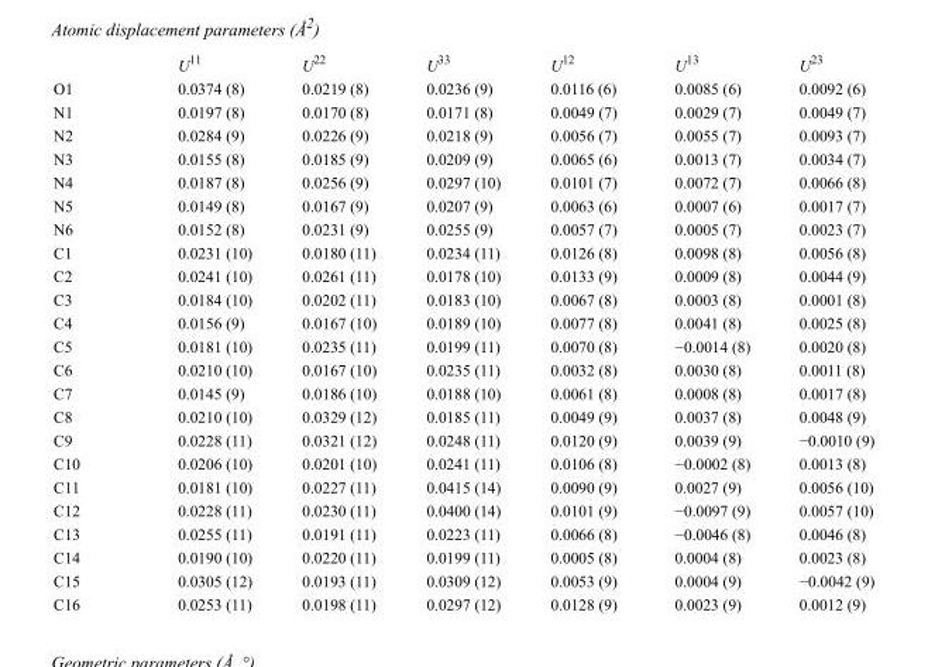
<table><thead><tr><td></td><td>U<sup>11</sup></td><td>U<sup>22</sup></td><td>U<sup>33</sup></td><td>U<sup>12</sup></td><td>U<sup>13</sup></td><td>U<sup>23</sup></td></tr></thead><tbody><tr><td>O1</td><td>0.0374 (8)</td><td>0.0219 (8)</td><td>0.0236 (9)</td><td>0.0116 (6)</td><td>0.0085 (6)</td><td>0.0092 (6)</td></tr><tr><td>N1</td><td>0.0197 (8)</td><td>0.0170 (8)</td><td>0.0171 (8)</td><td>0.0049 (7)</td><td>0.0029 (7)</td><td>0.0049 (7)</td></tr><tr><td>N2</td><td>0.0284 (9)</td><td>0.0226 (9)</td><td>0.0218 (9)</td><td>0.0056 (7)</td><td>0.0055 (7)</td><td>0.0093 (7)</td></tr><tr><td>N3</td><td>0.0155 (8)</td><td>0.0185 (9)</td><td>0.0209 (9)</td><td>0.0065 (6)</td><td>0.0013 (7)</td><td>0.0034 (7)</td></tr><tr><td>N4</td><td>0.0187 (8)</td><td>0.0256 (9)</td><td>0.0297 (10)</td><td>0.0101 (7)</td><td>0.0072 (7)</td><td>0.0066 (8)</td></tr><tr><td>N5</td><td>0.0149 (8)</td><td>0.0167 (9)</td><td>0.0207 (9)</td><td>0.0063 (6)</td><td>0.0007 (6)</td><td>0.0017 (7)</td></tr><tr><td>N6</td><td>0.0152 (8)</td><td>0.0231 (9)</td><td>0.0255 (9)</td><td>0.0057 (7)</td><td>0.0005 (7)</td><td>0.0023 (7)</td></tr><tr><td>C1</td><td>0.0231 (10)</td><td>0.0180 (11)</td><td>0.0234 (11)</td><td>0.0126 (8)</td><td>0.0098 (8)</td><td>0.0056 (8)</td></tr><tr><td>C2</td><td>0.0241 (10)</td><td>0.0261 (11)</td><td>0.0178 (10)</td><td>0.0133 (9)</td><td>0.0009 (8)</td><td>0.0044 (9)</td></tr><tr><td>C3</td><td>0.0184 (10)</td><td>0.0202 (11)</td><td>0.0183 (10)</td><td>0.0067 (8)</td><td>0.0003 (8)</td><td>0.0001 (8)</td></tr><tr><td>C4</td><td>0.0156 (9)</td><td>0.0167 (10)</td><td>0.0189 (10)</td><td>0.0077 (8)</td><td>0.0041 (8)</td><td>0.0025 (8)</td></tr><tr><td>C5</td><td>0.0181 (10)</td><td>0.0235 (11)</td><td>0.0199 (11)</td><td>0.0070 (8)</td><td>−0.0014 (8)</td><td>0.0020 (8)</td></tr><tr><td>C6</td><td>0.0210 (10)</td><td>0.0167 (10)</td><td>0.0235 (11)</td><td>0.0032 (8)</td><td>0.0030 (8)</td><td>0.0011 (8)</td></tr><tr><td>C7</td><td>0.0145 (9)</td><td>0.0186 (10)</td><td>0.0188 (10)</td><td>0.0061 (8)</td><td>0.0008 (8)</td><td>0.0017 (8)</td></tr><tr><td>C8</td><td>0.0210 (10)</td><td>0.0329 (12)</td><td>0.0185 (11)</td><td>0.0049 (9)</td><td>0.0037 (8)</td><td>0.0048 (9)</td></tr><tr><td>C9</td><td>0.0228 (11)</td><td>0.0321 (12)</td><td>0.0248 (11)</td><td>0.0120 (9)</td><td>0.0039 (9)</td><td>−0.0010 (9)</td></tr><tr><td>C10</td><td>0.0206 (10)</td><td>0.0201 (10)</td><td>0.0241 (11)</td><td>0.0106 (8)</td><td>−0.0002 (8)</td><td>0.0013 (8)</td></tr><tr><td>C11</td><td>0.0181 (10)</td><td>0.0227 (11)</td><td>0.0415 (14)</td><td>0.0090 (9)</td><td>0.0027 (9)</td><td>0.0056 (10)</td></tr><tr><td>C12</td><td>0.0228 (11)</td><td>0.0230 (11)</td><td>0.0400 (14)</td><td>0.0101 (9)</td><td>−0.0097 (9)</td><td>0.0057 (10)</td></tr><tr><td>C13</td><td>0.0255 (11)</td><td>0.0191 (11)</td><td>0.0223 (11)</td><td>0.0066 (8)</td><td>−0.0046 (8)</td><td>0.0046 (8)</td></tr><tr><td>C14</td><td>0.0190 (10)</td><td>0.0220 (11)</td><td>0.0199 (11)</td><td>0.0005 (8)</td><td>0.0004 (8)</td><td>0.0023 (8)</td></tr><tr><td>C15</td><td>0.0305 (12)</td><td>0.0193 (11)</td><td>0.0309 (12)</td><td>0.0053 (9)</td><td>0.0004 (9)</td><td>−0.0042 (9)</td></tr><tr><td>C16</td><td>0.0253 (11)</td><td>0.0198 (11)</td><td>0.0297 (12)</td><td>0.0128 (9)</td><td>0.0023 (9)</td><td>0.0012 (9)</td></tr></tbody></table>